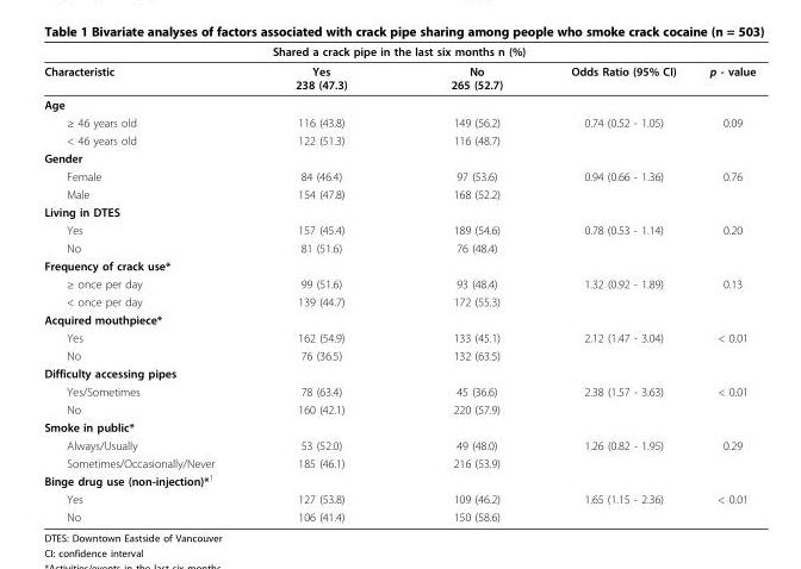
<table><thead><tr><td rowspan="2">Characteristic</td><td colspan="2">Shared a crack pipe in the last six months n (%)</td><td rowspan="2">Odds Ratio (95% CI)</td><td rowspan="2">p - value</td></tr><tr><td>Yes 238 (47.3)</td><td>No 265 (52.7)</td></tr></thead><tbody><tr><td colspan="5">Age</td></tr><tr><td>≥ 46 years old</td><td>116 (43.8)</td><td>149 (56.2)</td><td>0.74 (0.52 - 1.05)</td><td>0.09</td></tr><tr><td>&lt; 46 years old</td><td>122 (51.3)</td><td>116 (48.7)</td><td></td><td></td></tr><tr><td colspan="5">Gender</td></tr><tr><td>Female</td><td>84 (46.4)</td><td>97 (53.6)</td><td>0.94 (0.66 - 1.36)</td><td>0.76</td></tr><tr><td>Male</td><td>154 (47.8)</td><td>168 (52.2)</td><td></td><td></td></tr><tr><td colspan="5">Living in DTES</td></tr><tr><td>Yes</td><td>157 (45.4)</td><td>189 (54.6)</td><td>0.78 (0.53 - 1.14)</td><td>0.20</td></tr><tr><td>No</td><td>81 (51.6)</td><td>76 (48.4)</td><td></td><td></td></tr><tr><td colspan="5">Frequency of crack use*</td></tr><tr><td>≥ once per day</td><td>99 (51.6)</td><td>93 (48.4)</td><td>1.32 (0.92 - 1.89)</td><td>0.13</td></tr><tr><td>&lt; once per day</td><td>139 (44.7)</td><td>172 (55.3)</td><td></td><td></td></tr><tr><td colspan="5">Acquired mouthpiece*</td></tr><tr><td>Yes</td><td>162 (54.9)</td><td>133 (45.1)</td><td>2.12 (1.47 - 3.04)</td><td>&lt; 0.01</td></tr><tr><td>No</td><td>76 (36.5)</td><td>132 (63.5)</td><td></td><td></td></tr><tr><td colspan="5">Difficulty accessing pipes</td></tr><tr><td>Yes/Sometimes</td><td>78 (63.4)</td><td>45 (36.6)</td><td>2.38 (1.57 - 3.63)</td><td>&lt; 0.01</td></tr><tr><td>No</td><td>160 (42.1)</td><td>220 (57.9)</td><td></td><td></td></tr><tr><td colspan="5">Smoke in public*</td></tr><tr><td>Always/Usually</td><td>53 (52.0)</td><td>49 (48.0)</td><td>1.26 (0.82 - 1.95)</td><td>0.29</td></tr><tr><td>Sometimes/Occasionally/Never</td><td>185 (46.1)</td><td>216 (53.9)</td><td></td><td></td></tr><tr><td colspan="5">Binge drug use (non-injection)*<sup>1</sup></td></tr><tr><td>Yes</td><td>127 (53.8)</td><td>109 (46.2)</td><td>1.65 (1.15 - 2.36)</td><td>&lt; 0.01</td></tr><tr><td>No</td><td>106 (41.4)</td><td>150 (58.6)</td><td></td><td></td></tr></tbody></table>